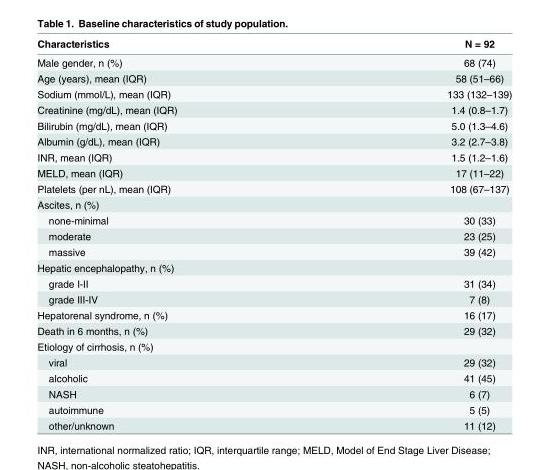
<table><thead><tr><td>Characteristics</td><td>N = 92</td></tr></thead><tbody><tr><td>Male gender, n (%)</td><td>68 (74)</td></tr><tr><td>Age (years), mean (IQR)</td><td>58 (51–66)</td></tr><tr><td>Sodium (mmol/L), mean (IQR)</td><td>133 (132–139)</td></tr><tr><td>Creatinine (mg/dL), mean (IQR)</td><td>1.4 (0.8–1.7)</td></tr><tr><td>Bilirubin (mg/dL), mean (IQR)</td><td>5.0 (1.3–4.6)</td></tr><tr><td>Albumin (g/dL), mean (IQR)</td><td>3.2 (2.7–3.8)</td></tr><tr><td>INR, mean (IQR)</td><td>1.5 (1.2–1.6)</td></tr><tr><td>MELD, mean (IQR)</td><td>17 (11–22)</td></tr><tr><td>Platelets (per nL), mean (IQR)</td><td>108 (67–137)</td></tr><tr><td colspan="2">Ascites, n (%)</td></tr><tr><td>none-minimal</td><td>30 (33)</td></tr><tr><td>moderate</td><td>23 (25)</td></tr><tr><td>massive</td><td>39 (42)</td></tr><tr><td colspan="2">Hepatic encephalopathy, n (%)</td></tr><tr><td>grade I-II</td><td>31 (34)</td></tr><tr><td>grade III-IV</td><td>7 (8)</td></tr><tr><td>Hepatorenal syndrome, n (%)</td><td>16 (17)</td></tr><tr><td>Death in 6 months, n (%)</td><td>29 (32)</td></tr><tr><td colspan="2">Etiology of cirrhosis, n (%)</td></tr><tr><td>viral</td><td>29 (32)</td></tr><tr><td>alcoholic</td><td>41 (45)</td></tr><tr><td>NASH</td><td>6 (7)</td></tr><tr><td>autoimmune</td><td>5 (5)</td></tr><tr><td>other/unknown</td><td>11 (12)</td></tr></tbody></table>